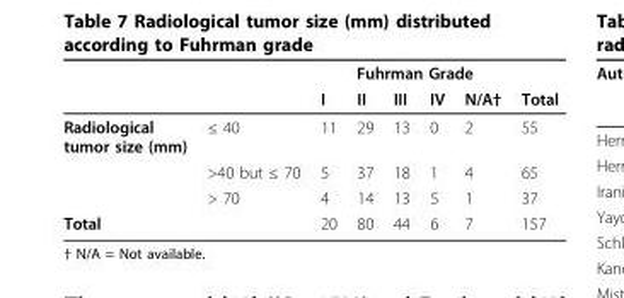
<table><thead><tr><td rowspan="2"></td><td rowspan="2"></td><td colspan="5">Fuhrman Grade</td><td rowspan="2">Total</td></tr><tr><td>I</td><td>II</td><td>III</td><td>IV</td><td>N/A†</td></tr></thead><tbody><tr><td rowspan="3">Radiological tumor size (mm)</td><td>≤ 40</td><td>11</td><td>29</td><td>13</td><td>0</td><td>2</td><td>55</td></tr><tr><td>&gt;40 but ≤ 70</td><td>5</td><td>37</td><td>18</td><td>1</td><td>4</td><td>65</td></tr><tr><td>&gt; 70</td><td>4</td><td>14</td><td>13</td><td>5</td><td>1</td><td>37</td></tr><tr><td colspan="2">Total</td><td>20</td><td>80</td><td>44</td><td>6</td><td>7</td><td>157</td></tr></tbody></table>